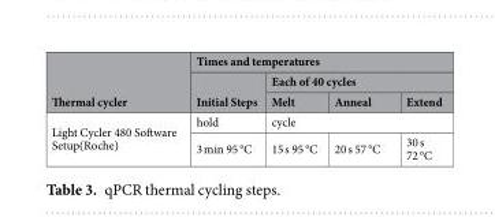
<table><thead><tr><td rowspan="3">Thermal cycler</td><td colspan="4">Times and temperatures</td></tr><tr><td rowspan="2">Initial Steps</td><td colspan="3">Each of 40 cycles</td></tr><tr><td>Melt</td><td>Anneal</td><td>Extend</td></tr></thead><tbody><tr><td rowspan="2">Light Cycler 480 Software Setup(Roche)</td><td>hold</td><td colspan="3">cycle</td></tr><tr><td>3 min 95 °C</td><td>15 s 95 °C</td><td>20 s 57 °C</td><td>30 s 72 °C</td></tr></tbody></table>